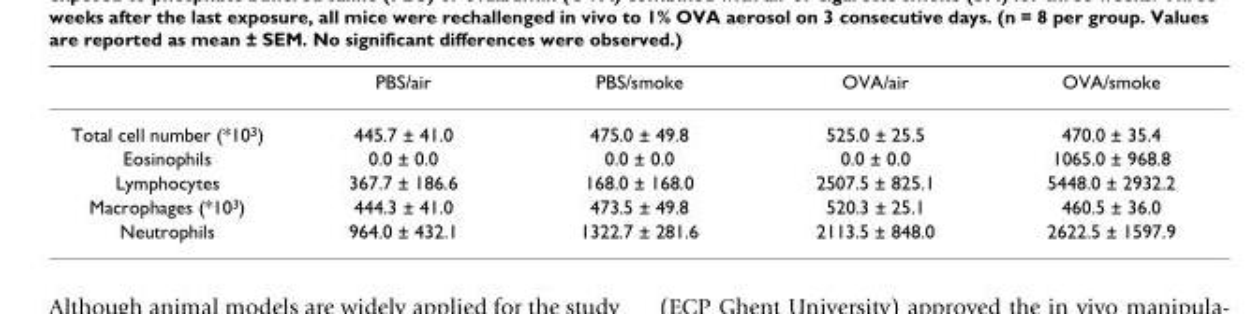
<table><thead><tr><td></td><td>PBS/air</td><td>PBS/smoke</td><td>OVA/air</td><td>OVA/smoke</td></tr></thead><tbody><tr><td>Total cell number (*10<sup>3</sup>)</td><td>445.7 ± 41.0</td><td>475.0 ± 49.8</td><td>525.0 ± 25.5</td><td>470.0 ± 35.4</td></tr><tr><td>Eosinophils</td><td>0.0 ± 0.0</td><td>0.0 ± 0.0</td><td>0.0 ± 0.0</td><td>1065.0 ± 968.8</td></tr><tr><td>Lymphocytes</td><td>367.7 ± 186.6</td><td>168.0 ± 168.0</td><td>2507.5 ± 825.1</td><td>5448.0 ± 2932.2</td></tr><tr><td>Macrophages (*10<sup>3</sup>)</td><td>444.3 ± 41.0</td><td>473.5 ± 49.8</td><td>520.3 ± 25.1</td><td>460.5 ± 36.0</td></tr><tr><td>Neutrophils</td><td>964.0 ± 432.1</td><td>1322.7 ± 281.6</td><td>2113.5 ± 848.0</td><td>2622.5 ± 1597.9</td></tr></tbody></table>